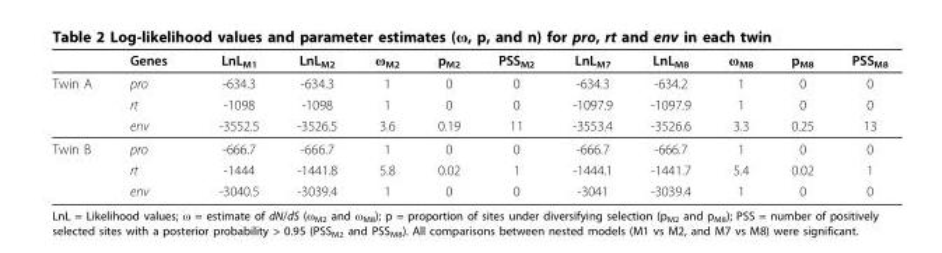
<table><thead><tr><td></td><td>Genes</td><td>LnL<sub>M1</sub></td><td>LnL<sub>M2</sub></td><td>ω<sub>M2</sub></td><td>p<sub>M2</sub></td><td>PSS<sub>M2</sub></td><td>LnL<sub>M7</sub></td><td>LnL<sub>M8</sub></td><td>ω<sub>M8</sub></td><td>p<sub>M8</sub></td><td>PSS<sub>M8</sub></td></tr></thead><tbody><tr><td rowspan="3">Twin A</td><td>pro</td><td>-634.3</td><td>-634.3</td><td>1</td><td>0</td><td>0</td><td>-634.3</td><td>-634.2</td><td>1</td><td>0</td><td>0</td></tr><tr><td>rt</td><td>-1098</td><td>-1098</td><td>1</td><td>0</td><td>0</td><td>-1097.9</td><td>-1097.9</td><td>1</td><td>0</td><td>0</td></tr><tr><td>env</td><td>-3552.5</td><td>-3526.5</td><td>3.6</td><td>0.19</td><td>11</td><td>-3553.4</td><td>-3526.6</td><td>3.3</td><td>0.25</td><td>13</td></tr><tr><td rowspan="3">Twin B</td><td>pro</td><td>-666.7</td><td>-666.7</td><td>1</td><td>0</td><td>0</td><td>-666.7</td><td>-666.7</td><td>1</td><td>0</td><td>0</td></tr><tr><td>rt</td><td>-1444</td><td>-1441.8</td><td>5.8</td><td>0.02</td><td>1</td><td>-1444.1</td><td>-1441.7</td><td>5.4</td><td>0.02</td><td>1</td></tr><tr><td>env</td><td>-3040.5</td><td>-3039.4</td><td>1</td><td>0</td><td>0</td><td>-3041</td><td>-3039.4</td><td>1</td><td>0</td><td>0</td></tr></tbody></table>